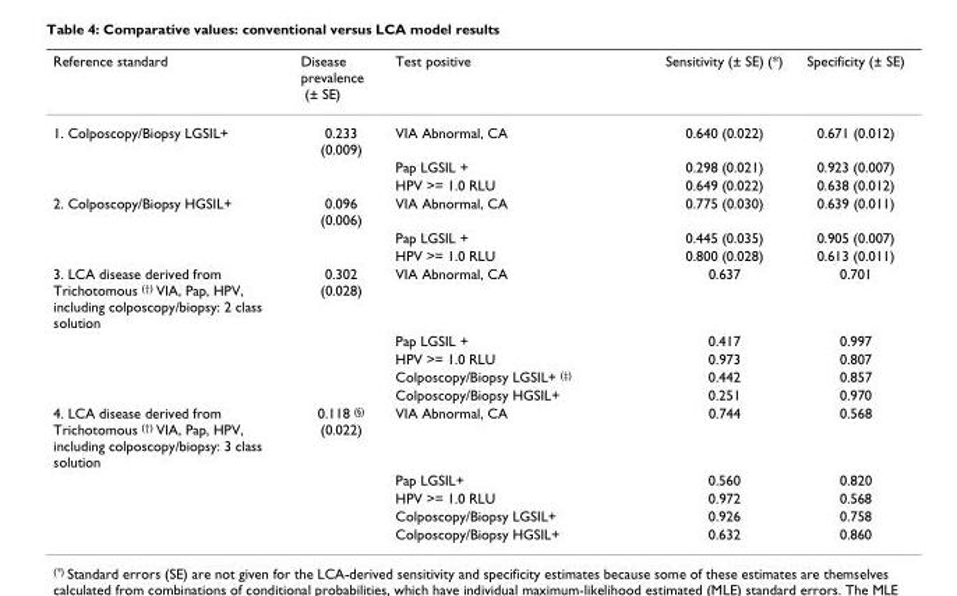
<table><thead><tr><td>Reference standard</td><td>Disease prevalence (± SE)</td><td>Test positive</td><td>Sensitivity (± SE) (*)</td><td>Specificity (± SE)</td></tr></thead><tbody><tr><td rowspan="3">1. Colposcopy/Biopsy LGSIL+</td><td>0.233 (0.009)</td><td>VIA Abnormal, CA</td><td>0.640 (0.022)</td><td>0.671 (0.012)</td></tr><tr><td></td><td>Pap LGSIL +</td><td>0.298 (0.021)</td><td>0.923 (0.007)</td></tr><tr><td></td><td>HPV &gt;= 1.0 RLU</td><td>0.649 (0.022)</td><td>0.638 (0.012)</td></tr><tr><td rowspan="3">2. Colposcopy/Biopsy HGSIL+</td><td>0.096 (0.006)</td><td>VIA Abnormal, CA</td><td>0.775 (0.030)</td><td>0.639 (0.011)</td></tr><tr><td></td><td>Pap LGSIL +</td><td>0.445 (0.035)</td><td>0.905 (0.007)</td></tr><tr><td></td><td>HPV &gt;= 1.0 RLU</td><td>0.800 (0.028)</td><td>0.613 (0.011)</td></tr><tr><td rowspan="5">3. LCA disease derived from Trichotomous <sup>(†)</sup> VIA, Pap, HPV, including colposcopy/biopsy: 2 class solution</td><td>0.302 (0.028)</td><td>VIA Abnormal, CA</td><td>0.637</td><td>0.701</td></tr><tr><td></td><td>Pap LGSIL +</td><td>0.417</td><td>0.997</td></tr><tr><td></td><td>HPV &gt;= 1.0 RLU</td><td>0.973</td><td>0.807</td></tr><tr><td></td><td>Colposcopy/Biopsy LGSIL+ <sup>(‡)</sup></td><td>0.442</td><td>0.857</td></tr><tr><td></td><td>Colposcopy/Biopsy HGSIL+</td><td>0.251</td><td>0.970</td></tr><tr><td rowspan="5">4. LCA disease derived from Trichotomous <sup>(†)</sup> VIA, Pap, HPV, including colposcopy/biopsy: 3 class solution</td><td>0.118 <sup>(§)</sup> (0.022)</td><td>VIA Abnormal, CA</td><td>0.744</td><td>0.568</td></tr><tr><td></td><td>Pap LGSIL+</td><td>0.560</td><td>0.820</td></tr><tr><td></td><td>HPV &gt;= 1.0 RLU</td><td>0.972</td><td>0.568</td></tr><tr><td></td><td>Colposcopy/Biopsy LGSIL+</td><td>0.926</td><td>0.758</td></tr><tr><td></td><td>Colposcopy/Biopsy HGSIL+</td><td>0.632</td><td>0.860</td></tr></tbody></table>